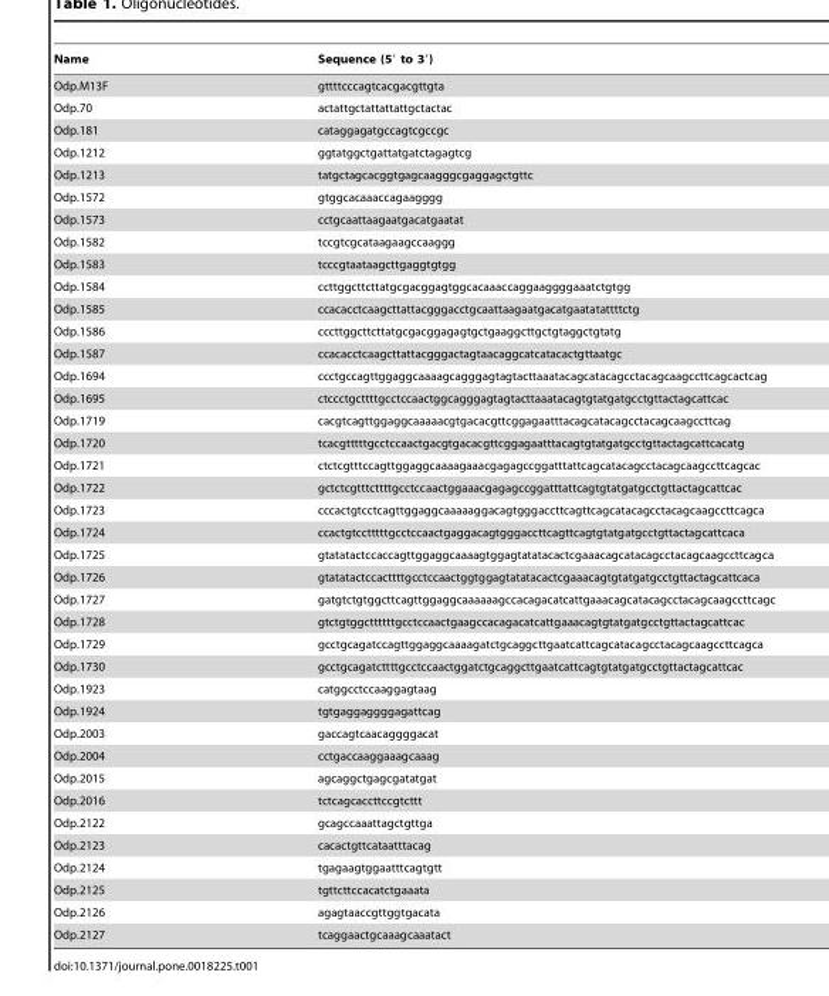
<table><thead><tr><td>Name</td><td>Sequence (5′ to 3′)</td></tr></thead><tbody><tr><td>Odp.M13F</td><td>gttttcccagtcacgacgttgta</td></tr><tr><td>Odp.70</td><td>actattgctattattattgctactac</td></tr><tr><td>Odp.181</td><td>cataggagatgccagtcgccgc</td></tr><tr><td>Odp.1212</td><td>ggtatggctgattatgatctagagtcg</td></tr><tr><td>Odp.1213</td><td>tatgctagcacggtgagcaagggcgaggagctgttc</td></tr><tr><td>Odp.1572</td><td>gtggcacaaaccagaagggg</td></tr><tr><td>Odp.1573</td><td>cctgcaattaagaatgacatgaatat</td></tr><tr><td>Odp.1582</td><td>tccgtcgcataagaagccaaggg</td></tr><tr><td>Odp.1583</td><td>tcccgtaataagcttgaggtgtgg</td></tr><tr><td>Odp.1584</td><td>ccttggcttcttatgcgacggagtggcacaaaccaggaaggggaaatctgtgg</td></tr><tr><td>Odp.1585</td><td>ccacacctcaagcttattacgggacctgcaattaagaatgacatgaatatattttctg</td></tr><tr><td>Odp.1586</td><td>cccttggcttcttatgcgacggagagtgctgaaggcttgctgtaggctgtatg</td></tr><tr><td>Odp.1587</td><td>ccacacctcaagcttattacgggactagtaacaggcatcatacactgttaatgc</td></tr><tr><td>Odp.1694</td><td>ccctgccagttggaggcaaaagcagggagtagtacttaaatacagcatacagcctacagcaagccttcagcactcag</td></tr><tr><td>Odp.1695</td><td>ctccctgcttttgcctccaactggcagggagtagtacttaaatacagtgtatgatgcctgttactagcattcac</td></tr><tr><td>Odp.1719</td><td>cacgtcagttggaggcaaaaacgtgacacgttcggagaatttacagcatacagcctacagcaagccttcag</td></tr><tr><td>Odp.1720</td><td>tcacgtttttgcctccaactgacgtgacacgttcggagaatttacagtgtatgatgcctgttactagcattcacatg</td></tr><tr><td>Odp.1721</td><td>ctctcgtttccagttggaggcaaaagaaacgagagccggatttattcagcatacagcctacagcaagccttcagcac</td></tr><tr><td>Odp.1722</td><td>gctctcgtttcttttgcctccaactggaaacgagagccggatttattcagtgtatgatgcctgttactagcattcac</td></tr><tr><td>Odp.1723</td><td>cccactgtcctcagttggaggcaaaaaggacagtgggaccttcagttcagcatacagcctacagcaagccttcagca</td></tr><tr><td>Odp.1724</td><td>ccactgtcctttttgcctccaactgaggacagtgggaccttcagttcagtgtatgatgcctgttactagcattcaca</td></tr><tr><td>Odp.1725</td><td>gtatatactccaccagttggaggcaaaagtggagtatatacactcgaaacagcatacagcctacagcaagccttcagca</td></tr><tr><td>Odp.1726</td><td>gtatatactccacttttgcctccaactggtggagtatatacactcgaaacagtgtatgatgcctgttactagcattcaca</td></tr><tr><td>Odp.1727</td><td>gatgtctgtggcttcagttggaggcaaaaaagccacagacatcattgaaacagcatacagcctacagcaagccttcagc</td></tr><tr><td>Odp.1728</td><td>gtctgtggcttttttgcctccaactgaagccacagacatcattgaaacagtgtatgatgcctgttactagcattcac</td></tr><tr><td>Odp.1729</td><td>gcctgcagatccagttggaggcaaaagatctgcaggcttgaatcattcagcatacagcctacagcaagccttcagca</td></tr><tr><td>Odp.1730</td><td>gcctgcagatcttttgcctccaactggatctgcaggcttgaatcattcagtgtatgatgcctgttactagcattcac</td></tr><tr><td>Odp.1923</td><td>catggcctccaaggagtaag</td></tr><tr><td>Odp.1924</td><td>tgtgaggaggggagattcag</td></tr><tr><td>Odp.2003</td><td>gaccagtcaacaggggacat</td></tr><tr><td>Odp.2004</td><td>cctgaccaaggaaagcaaag</td></tr><tr><td>Odp.2015</td><td>agcaggctgagcgatatgat</td></tr><tr><td>Odp.2016</td><td>tctcagcaccttccgtcttt</td></tr><tr><td>Odp.2122</td><td>gcagccaaattagctgttga</td></tr><tr><td>Odp.2123</td><td>cacactgttcataatttacag</td></tr><tr><td>Odp.2124</td><td>tgagaagtggaatttcagtgtt</td></tr><tr><td>Odp.2125</td><td>tgttcttccacatctgaaata</td></tr><tr><td>Odp.2126</td><td>agagtaaccgttggtgacata</td></tr><tr><td>Odp.2127</td><td>tcaggaactgcaaagcaaatact</td></tr></tbody></table>